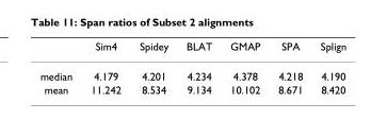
<table><thead><tr><td></td><td>Sim4</td><td>Spidey</td><td>BLAT</td><td>GMAP</td><td>SPA</td><td>Splign</td></tr></thead><tbody><tr><td>median</td><td>4.179</td><td>4.201</td><td>4.234</td><td>4.378</td><td>4.218</td><td>4.190</td></tr><tr><td>mean</td><td>11.242</td><td>8.534</td><td>9.134</td><td>10.102</td><td>8.671</td><td>8.420</td></tr></tbody></table>